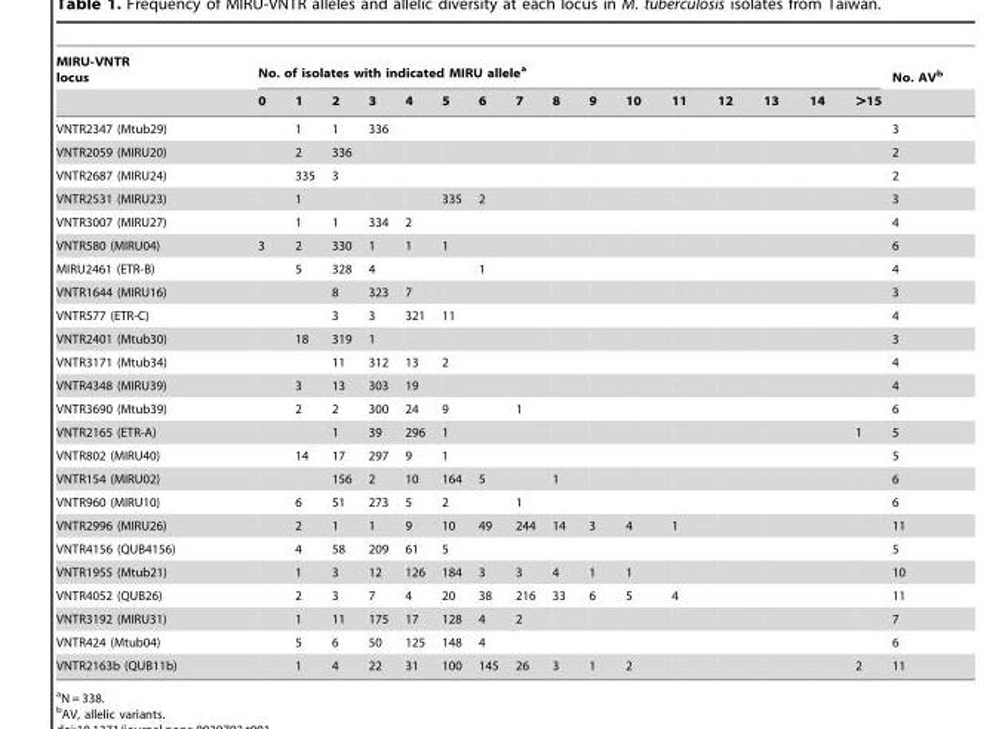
<table><thead><tr><td rowspan="2">MIRU-VNTR locus</td><td colspan="16">No. of isolates with indicated MIRU allele<sup>a</sup></td><td rowspan="2">No. AV<sup>b</sup></td></tr><tr><td>0</td><td>1</td><td>2</td><td>3</td><td>4</td><td>5</td><td>6</td><td>7</td><td>8</td><td>9</td><td>10</td><td>11</td><td>12</td><td>13</td><td>14</td><td>&gt;15</td></tr></thead><tbody><tr><td>VNTR2347 (Mtub29)</td><td></td><td>1</td><td>1</td><td>336</td><td></td><td></td><td></td><td></td><td></td><td></td><td></td><td></td><td></td><td></td><td></td><td></td><td>3</td></tr><tr><td>VNTR2059 (MIRU20)</td><td></td><td>2</td><td>336</td><td></td><td></td><td></td><td></td><td></td><td></td><td></td><td></td><td></td><td></td><td></td><td></td><td></td><td>2</td></tr><tr><td>VNTR2687 (MIRU24)</td><td></td><td>335</td><td>3</td><td></td><td></td><td></td><td></td><td></td><td></td><td></td><td></td><td></td><td></td><td></td><td></td><td></td><td>2</td></tr><tr><td>VNTR2531 (MIRU23)</td><td></td><td>1</td><td></td><td></td><td></td><td>335</td><td>2</td><td></td><td></td><td></td><td></td><td></td><td></td><td></td><td></td><td></td><td>3</td></tr><tr><td>VNTR3007 (MIRU27)</td><td></td><td>1</td><td>1</td><td>334</td><td>2</td><td></td><td></td><td></td><td></td><td></td><td></td><td></td><td></td><td></td><td></td><td></td><td>4</td></tr><tr><td>VNTR580 (MIRU04)</td><td>3</td><td>2</td><td>330</td><td>1</td><td>1</td><td>1</td><td></td><td></td><td></td><td></td><td></td><td></td><td></td><td></td><td></td><td></td><td>6</td></tr><tr><td>MIRU2461 (ETR-B)</td><td></td><td>5</td><td>328</td><td>4</td><td></td><td></td><td>1</td><td></td><td></td><td></td><td></td><td></td><td></td><td></td><td></td><td></td><td>4</td></tr><tr><td>VNTR1644 (MIRU16)</td><td></td><td></td><td>8</td><td>323</td><td>7</td><td></td><td></td><td></td><td></td><td></td><td></td><td></td><td></td><td></td><td></td><td></td><td>3</td></tr><tr><td>VNTR577 (ETR-C)</td><td></td><td></td><td>3</td><td>3</td><td>321</td><td>11</td><td></td><td></td><td></td><td></td><td></td><td></td><td></td><td></td><td></td><td></td><td>4</td></tr><tr><td>VNTR2401 (Mtub30)</td><td></td><td>18</td><td>319</td><td>1</td><td></td><td></td><td></td><td></td><td></td><td></td><td></td><td></td><td></td><td></td><td></td><td></td><td>3</td></tr><tr><td>VNTR3171 (Mtub34)</td><td></td><td></td><td>11</td><td>312</td><td>13</td><td>2</td><td></td><td></td><td></td><td></td><td></td><td></td><td></td><td></td><td></td><td></td><td>4</td></tr><tr><td>VNTR4348 (MIRU39)</td><td></td><td>3</td><td>13</td><td>303</td><td>19</td><td></td><td></td><td></td><td></td><td></td><td></td><td></td><td></td><td></td><td></td><td></td><td>4</td></tr><tr><td>VNTR3690 (Mtub39)</td><td></td><td>2</td><td>2</td><td>300</td><td>24</td><td>9</td><td></td><td>1</td><td></td><td></td><td></td><td></td><td></td><td></td><td></td><td></td><td>6</td></tr><tr><td>VNTR2165 (ETR-A)</td><td></td><td></td><td>1</td><td>39</td><td>296</td><td>1</td><td></td><td></td><td></td><td></td><td></td><td></td><td></td><td></td><td></td><td>1</td><td>5</td></tr><tr><td>VNTR802 (MIRU40)</td><td></td><td>14</td><td>17</td><td>297</td><td>9</td><td>1</td><td></td><td></td><td></td><td></td><td></td><td></td><td></td><td></td><td></td><td></td><td>5</td></tr><tr><td>VNTR154 (MIRU02)</td><td></td><td></td><td>156</td><td>2</td><td>10</td><td>164</td><td>5</td><td></td><td>1</td><td></td><td></td><td></td><td></td><td></td><td></td><td></td><td>6</td></tr><tr><td>VNTR960 (MIRU10)</td><td></td><td>6</td><td>51</td><td>273</td><td>5</td><td>2</td><td></td><td>1</td><td></td><td></td><td></td><td></td><td></td><td></td><td></td><td></td><td>6</td></tr><tr><td>VNTR2996 (MIRU26)</td><td></td><td>2</td><td>1</td><td>1</td><td>9</td><td>10</td><td>49</td><td>244</td><td>14</td><td>3</td><td>4</td><td>1</td><td></td><td></td><td></td><td></td><td>11</td></tr><tr><td>VNTR4156 (QUB4156)</td><td></td><td>4</td><td>58</td><td>209</td><td>61</td><td>5</td><td></td><td></td><td></td><td></td><td></td><td></td><td></td><td></td><td></td><td></td><td>5</td></tr><tr><td>VNTR1955 (Mtub21)</td><td></td><td>1</td><td>3</td><td>12</td><td>126</td><td>184</td><td>3</td><td>3</td><td>4</td><td>1</td><td>1</td><td></td><td></td><td></td><td></td><td></td><td>10</td></tr><tr><td>VNTR4052 (QUB26)</td><td></td><td>2</td><td>3</td><td>7</td><td>4</td><td>20</td><td>38</td><td>216</td><td>33</td><td>6</td><td>5</td><td>4</td><td></td><td></td><td></td><td></td><td>11</td></tr><tr><td>VNTR3192 (MIRU31)</td><td></td><td>1</td><td>11</td><td>175</td><td>17</td><td>128</td><td>4</td><td>2</td><td></td><td></td><td></td><td></td><td></td><td></td><td></td><td></td><td>7</td></tr><tr><td>VNTR424 (Mtub04)</td><td></td><td>5</td><td>6</td><td>50</td><td>125</td><td>148</td><td>4</td><td></td><td></td><td></td><td></td><td></td><td></td><td></td><td></td><td></td><td>6</td></tr><tr><td>VNTR2163b (QUB11b)</td><td></td><td>1</td><td>4</td><td>22</td><td>31</td><td>100</td><td>145</td><td>26</td><td>3</td><td>1</td><td>2</td><td></td><td></td><td></td><td></td><td>2</td><td>11</td></tr></tbody></table>